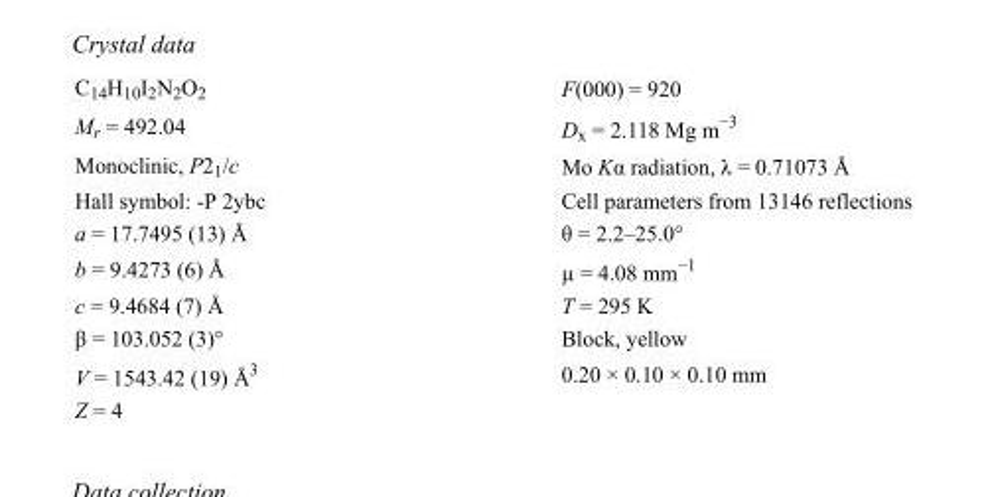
<table><tbody><tr><td>C<sub>14</sub>H<sub>10</sub>I<sub>2</sub>N<sub>2</sub>O<sub>2</sub></td><td>F(000) = 920</td></tr><tr><td>M<sub>r</sub> = 492.04</td><td>D<sub>x</sub> = 2.118 Mg m<sup>−3</sup></td></tr><tr><td>Monoclinic, P2<sub>1</sub>/c</td><td>Mo Kα radiation, λ = 0.71073 Å</td></tr><tr><td>Hall symbol: -P 2ybc</td><td>Cell parameters from 13146 reflections</td></tr><tr><td>a = 17.7495 (13) Å</td><td>θ = 2.2–25.0°</td></tr><tr><td>b = 9.4273 (6) Å</td><td>µ = 4.08 mm<sup>−1</sup></td></tr><tr><td>c = 9.4684 (7) Å</td><td>T = 295 K</td></tr><tr><td>β = 103.052 (3)°</td><td>Block, yellow</td></tr><tr><td>V = 1543.42 (19) Å<sup>3</sup></td><td>0.20 × 0.10 × 0.10 mm</td></tr><tr><td>Z = 4</td><td></td></tr></tbody></table>